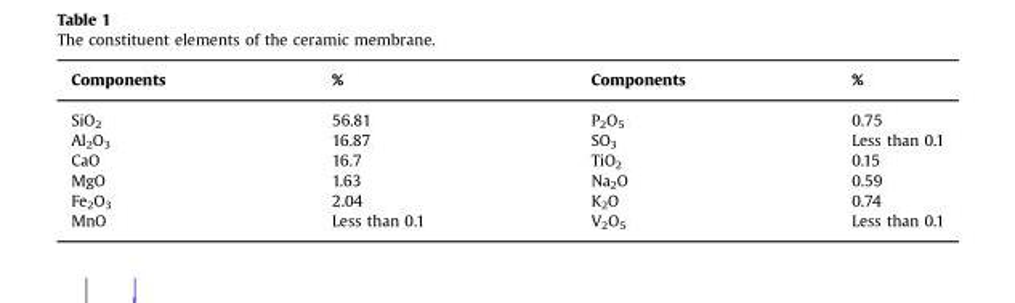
<table><thead><tr><td>Components</td><td>%</td><td>Components</td><td>%</td></tr></thead><tbody><tr><td>SiO<sub>2</sub></td><td>56.81</td><td>P<sub>2</sub>O<sub>5</sub></td><td>0.75</td></tr><tr><td>Al<sub>2</sub>O<sub>3</sub></td><td>16.87</td><td>SO<sub>3</sub></td><td>Less than 0.1</td></tr><tr><td>CaO</td><td>16.7</td><td>TiO<sub>2</sub></td><td>0.15</td></tr><tr><td>MgO</td><td>1.63</td><td>Na<sub>2</sub>O</td><td>0.59</td></tr><tr><td>Fe<sub>2</sub>O<sub>3</sub></td><td>2.04</td><td>K<sub>2</sub>O</td><td>0.74</td></tr><tr><td>MnO</td><td>Less than 0.1</td><td>V<sub>2</sub>O<sub>5</sub></td><td>Less than 0.1</td></tr></tbody></table>